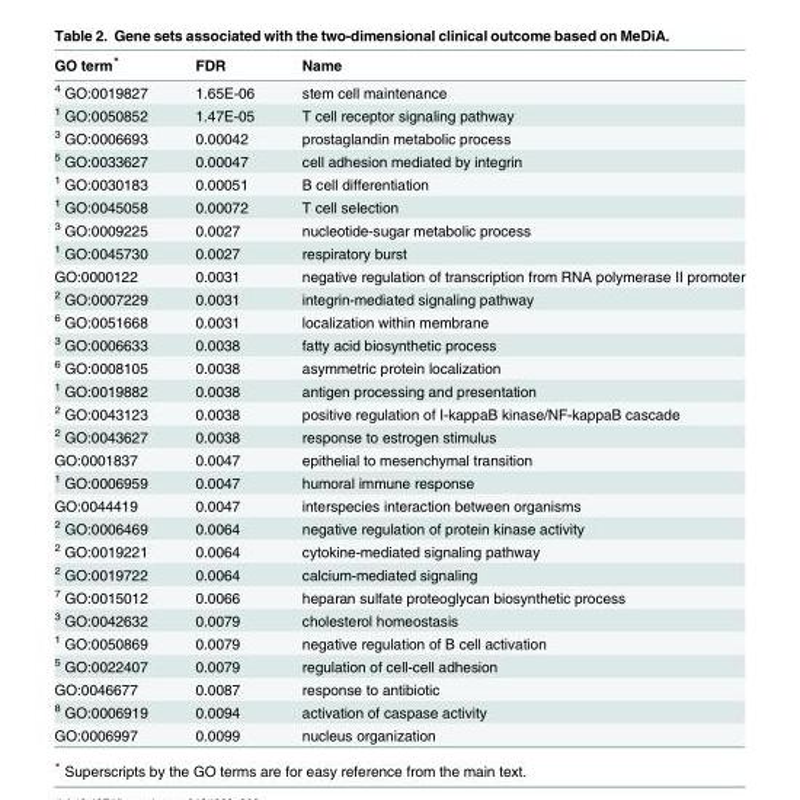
<table><thead><tr><td>GO term*</td><td>FDR</td><td>Name</td></tr></thead><tbody><tr><td><sup>4</sup> GO:0019827</td><td>1.65E-06</td><td>stem cell maintenance</td></tr><tr><td><sup>1</sup> GO:0050852</td><td>1.47E-05</td><td>T cell receptor signaling pathway</td></tr><tr><td><sup>3</sup> GO:0006693</td><td>0.00042</td><td>prostaglandin metabolic process</td></tr><tr><td><sup>5</sup> GO:0033627</td><td>0.00047</td><td>cell adhesion mediated by integrin</td></tr><tr><td><sup>1</sup> GO:0030183</td><td>0.00051</td><td>B cell differentiation</td></tr><tr><td><sup>1</sup> GO:0045058</td><td>0.00072</td><td>T cell selection</td></tr><tr><td><sup>3</sup> GO:0009225</td><td>0.0027</td><td>nucleotide-sugar metabolic process</td></tr><tr><td><sup>1</sup> GO:0045730</td><td>0.0027</td><td>respiratory burst</td></tr><tr><td>GO:0000122</td><td>0.0031</td><td>negative regulation of transcription from RNA polymerase II promoter</td></tr><tr><td><sup>2</sup> GO:0007229</td><td>0.0031</td><td>integrin-mediated signaling pathway</td></tr><tr><td><sup>6</sup> GO:0051668</td><td>0.0031</td><td>localization within membrane</td></tr><tr><td><sup>3</sup> GO:0006633</td><td>0.0038</td><td>fatty acid biosynthetic process</td></tr><tr><td><sup>6</sup> GO:0008105</td><td>0.0038</td><td>asymmetric protein localization</td></tr><tr><td><sup>1</sup> GO:0019882</td><td>0.0038</td><td>antigen processing and presentation</td></tr><tr><td><sup>2</sup> GO:0043123</td><td>0.0038</td><td>positive regulation of I-kappaB kinase/NF-kappaB cascade</td></tr><tr><td><sup>2</sup> GO:0043627</td><td>0.0038</td><td>response to estrogen stimulus</td></tr><tr><td>GO:0001837</td><td>0.0047</td><td>epithelial to mesenchymal transition</td></tr><tr><td><sup>1</sup> GO:0006959</td><td>0.0047</td><td>humoral immune response</td></tr><tr><td>GO:0044419</td><td>0.0047</td><td>interspecies interaction between organisms</td></tr><tr><td><sup>2</sup> GO:0006469</td><td>0.0064</td><td>negative regulation of protein kinase activity</td></tr><tr><td><sup>2</sup> GO:0019221</td><td>0.0064</td><td>cytokine-mediated signaling pathway</td></tr><tr><td><sup>2</sup> GO:0019722</td><td>0.0064</td><td>calcium-mediated signaling</td></tr><tr><td><sup>7</sup> GO:0015012</td><td>0.0066</td><td>heparan sulfate proteoglycan biosynthetic process</td></tr><tr><td><sup>3</sup> GO:0042632</td><td>0.0079</td><td>cholesterol homeostasis</td></tr><tr><td><sup>1</sup> GO:0050869</td><td>0.0079</td><td>negative regulation of B cell activation</td></tr><tr><td><sup>5</sup> GO:0022407</td><td>0.0079</td><td>regulation of cell-cell adhesion</td></tr><tr><td>GO:0046677</td><td>0.0087</td><td>response to antibiotic</td></tr><tr><td><sup>8</sup> GO:0006919</td><td>0.0094</td><td>activation of caspase activity</td></tr><tr><td>GO:0006997</td><td>0.0099</td><td>nucleus organization</td></tr></tbody></table>